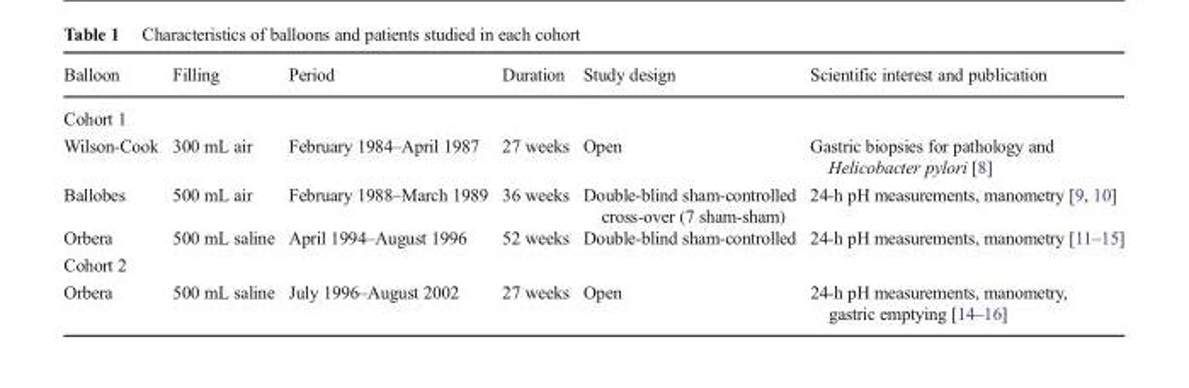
<table><thead><tr><td>Balloon</td><td>Filling</td><td>Period</td><td>Duration</td><td>Study design</td><td>Scientific interest and publication</td></tr></thead><tbody><tr><td colspan="6">Cohort 1</td></tr><tr><td>Wilson-Cook</td><td>300 mL air</td><td>February 1984–April 1987</td><td>27 weeks</td><td>Open</td><td>Gastric biopsies for pathology and Helicobacter pylori [8]</td></tr><tr><td>Ballobes</td><td>500 mL air</td><td>February 1988–March 1989</td><td>36 weeks</td><td>Double-blind sham-controlled cross-over (7 sham-sham)</td><td>24-h pH measurements, manometry [9, 10]</td></tr><tr><td>Orbera</td><td>500 mL saline</td><td>April 1994–August 1996</td><td>52 weeks</td><td>Double-blind sham-controlled</td><td>24-h pH measurements, manometry [11–15]</td></tr><tr><td colspan="6">Cohort 2</td></tr><tr><td>Orbera</td><td>500 mL saline</td><td>July 1996–August 2002</td><td>27 weeks</td><td>Open</td><td>24-h pH measurements, manometry, gastric emptying [14–16]</td></tr></tbody></table>